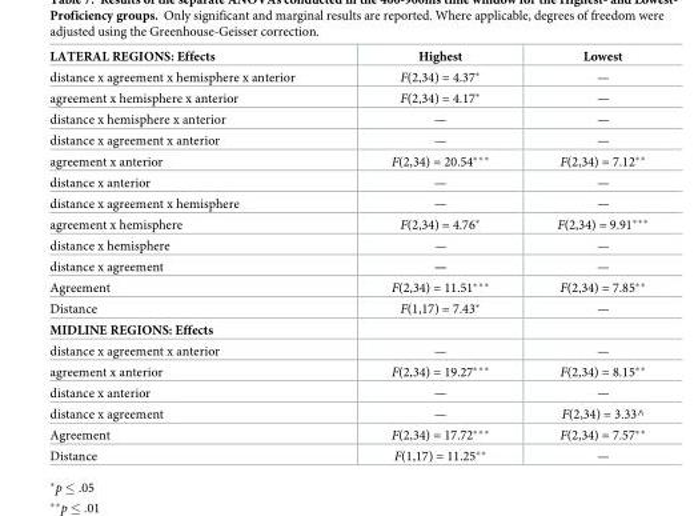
<table><thead><tr><td>LATERAL REGIONS: Effects</td><td>Highest</td><td>Lowest</td></tr></thead><tbody><tr><td>distance x agreement x hemisphere x anterior</td><td>F(2,34) = 4.37*</td><td>—</td></tr><tr><td>agreement x hemisphere x anterior</td><td>F(2,34) = 4.17*</td><td>—</td></tr><tr><td>distance x hemisphere x anterior</td><td>—</td><td>—</td></tr><tr><td>distance x agreement x anterior</td><td>—</td><td>—</td></tr><tr><td>agreement x anterior</td><td>F(2,34) = 20.54***</td><td>F(2,34) = 7.12**</td></tr><tr><td>distance x anterior</td><td>—</td><td>—</td></tr><tr><td>distance x agreement x hemisphere</td><td>—</td><td>—</td></tr><tr><td>agreement x hemisphere</td><td>F(2,34) = 4.76*</td><td>F(2,34) = 9.91***</td></tr><tr><td>distance x hemisphere</td><td>—</td><td>—</td></tr><tr><td>distance x agreement</td><td>—</td><td>—</td></tr><tr><td>Agreement</td><td>F(2,34) = 11.51***</td><td>F(2,34) = 7.85**</td></tr><tr><td>Distance</td><td>F(1,17) = 7.43*</td><td>—</td></tr><tr><td colspan="3">MIDLINE REGIONS: Effects</td></tr><tr><td>distance x agreement x anterior</td><td>—</td><td>—</td></tr><tr><td>agreement x anterior</td><td>F(2,34) = 19.27***</td><td>F(2,34) = 8.15**</td></tr><tr><td>distance x anterior</td><td>—</td><td>—</td></tr><tr><td>distance x agreement</td><td>—</td><td>F(2,34) = 3.33^</td></tr><tr><td>Agreement</td><td>F(2,34) = 17.72***</td><td>F(2,34) = 7.57**</td></tr><tr><td>Distance</td><td>F(1,17) = 11.25**</td><td>—</td></tr></tbody></table>